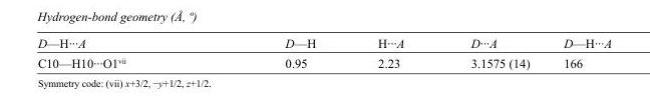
<table><tbody><tr><td>D—H···A</td><td>D—H</td><td>H···A</td><td>D···A</td><td>D—H···A</td></tr><tr><td>C10—H10···O1<sup>vii</sup></td><td>0.95</td><td>2.23</td><td>3.1575 (14)</td><td>166</td></tr></tbody></table>